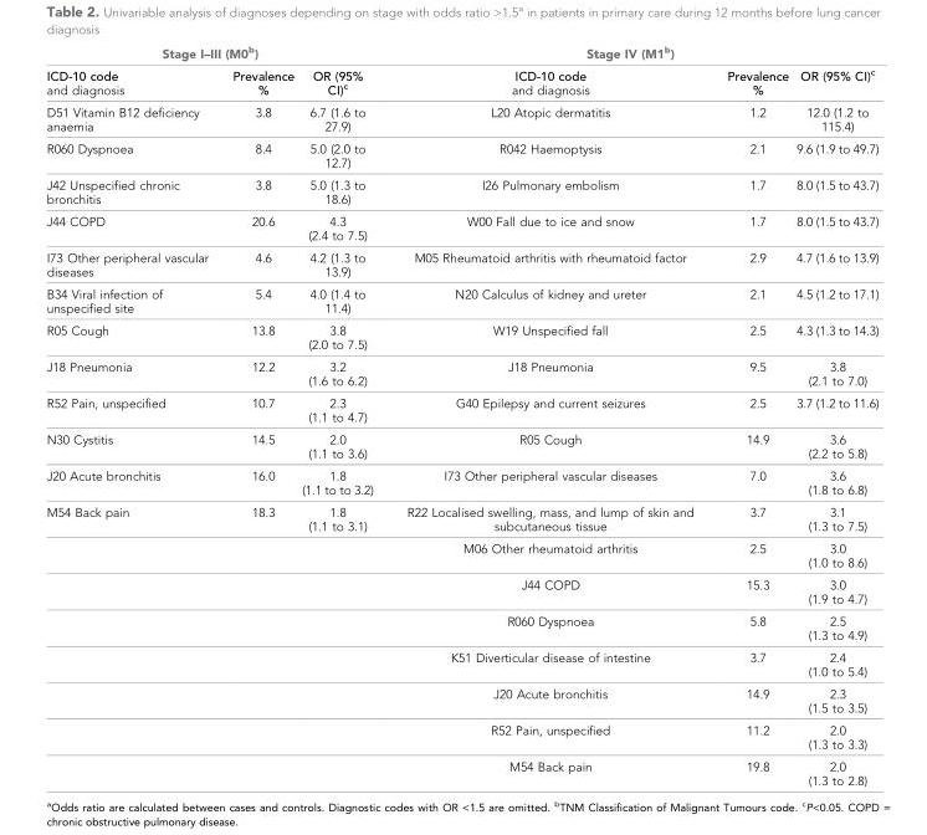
<table><thead><tr><td colspan="3">Stage I–III (M0<sup>b</sup>)</td><td colspan="3">Stage IV (M1<sup>b</sup>)</td></tr><tr><td>ICD-10 code and diagnosis</td><td>Prevalence %</td><td>OR (95% CI)<sup>c</sup></td><td>ICD-10 code and diagnosis</td><td>Prevalence %</td><td>OR (95% CI)<sup>c</sup></td></tr></thead><tbody><tr><td>D51 Vitamin B12 deficiency anaemia</td><td>3.8</td><td>6.7 (1.6 to 27.9)</td><td>L20 Atopic dermatitis</td><td>1.2</td><td>12.0 (1.2 to 115.4)</td></tr><tr><td>R060 Dyspnoea</td><td>8.4</td><td>5.0 (2.0 to 12.7)</td><td>R042 Haemoptysis</td><td>2.1</td><td>9.6 (1.9 to 49.7)</td></tr><tr><td>J42 Unspecified chronic bronchitis</td><td>3.8</td><td>5.0 (1.3 to 18.6)</td><td>I26 Pulmonary embolism</td><td>1.7</td><td>8.0 (1.5 to 43.7)</td></tr><tr><td>J44 COPD</td><td>20.6</td><td>4.3 (2.4 to 7.5)</td><td>W00 Fall due to ice and snow</td><td>1.7</td><td>8.0 (1.5 to 43.7)</td></tr><tr><td>I73 Other peripheral vascular diseases</td><td>4.6</td><td>4.2 (1.3 to 13.9)</td><td>M05 Rheumatoid arthritis with rheumatoid factor</td><td>2.9</td><td>4.7 (1.6 to 13.9)</td></tr><tr><td>B34 Viral infection of unspecified site</td><td>5.4</td><td>4.0 (1.4 to 11.4)</td><td>N20 Calculus of kidney and ureter</td><td>2.1</td><td>4.5 (1.2 to 17.1)</td></tr><tr><td>R05 Cough</td><td>13.8</td><td>3.8 (2.0 to 7.5)</td><td>W19 Unspecified fall</td><td>2.5</td><td>4.3 (1.3 to 14.3)</td></tr><tr><td>J18 Pneumonia</td><td>12.2</td><td>3.2 (1.6 to 6.2)</td><td>J18 Pneumonia</td><td>9.5</td><td>3.8 (2.1 to 7.0)</td></tr><tr><td>R52 Pain, unspecified</td><td>10.7</td><td>2.3 (1.1 to 4.7)</td><td>G40 Epilepsy and current seizures</td><td>2.5</td><td>3.7 (1.2 to 11.6)</td></tr><tr><td>N30 Cystitis</td><td>14.5</td><td>2.0 (1.1 to 3.6)</td><td>R05 Cough</td><td>14.9</td><td>3.6 (2.2 to 5.8)</td></tr><tr><td>J20 Acute bronchitis</td><td>16.0</td><td>1.8 (1.1 to to 3.2)</td><td>I73 Other peripheral vascular diseases</td><td>7.0</td><td>3.6 (1.8 to 6.8)</td></tr><tr><td rowspan="8">M54 Back pain</td><td>18.3</td><td>1.8 (1.1 to 3.1)</td><td>R22 Localised swelling, mass, and lump of skin and subcutaneous tissue</td><td>3.7</td><td>3.1 (1.3 to 7.5)</td></tr><tr><td></td><td></td><td>M06 Other rheumatoid arthritis</td><td>2.5</td><td>3.0 (1.0 to 8.6)</td></tr><tr><td></td><td></td><td>J44 COPD</td><td>15.3</td><td>3.0 (1.9 to 4.7)</td></tr><tr><td></td><td></td><td>R060 Dyspnoea</td><td>5.8</td><td>2.5 (1.3 to 4.9)</td></tr><tr><td></td><td></td><td>K51 Diverticular disease of intestine</td><td>3.7</td><td>2.4 (1.0 to 5.4)</td></tr><tr><td></td><td></td><td>J20 Acute bronchitis</td><td>14.9</td><td>2.3 (1.5 to 3.5)</td></tr><tr><td></td><td></td><td>R52 Pain, unspecified</td><td>11.2</td><td>2.0 (1.3 to 3.3)</td></tr><tr><td></td><td></td><td>M54 Back pain</td><td>19.8</td><td>2.0 (1.3 to 2.8)</td></tr></tbody></table>